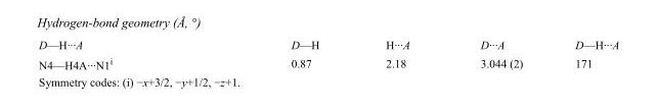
<table><tbody><tr><td>D—H···A</td><td>D—H</td><td>H···A</td><td>D···A</td><td>D—H···A</td></tr><tr><td>N4—H4A···N1<sup>i</sup></td><td>0.87</td><td>2.18</td><td>3.044 (2)</td><td>171</td></tr></tbody></table>